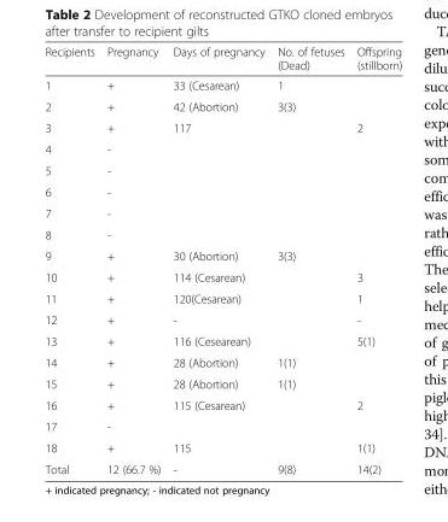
<table><thead><tr><td>Recipients</td><td>Pregnancy</td><td>Days of pregnancy</td><td>No. of fetuses (Dead)</td><td>Offspring (stillborn)</td></tr></thead><tbody><tr><td>1</td><td>+</td><td>33 (Cesarean)</td><td>1</td><td></td></tr><tr><td>2</td><td>+</td><td>42 (Abortion)</td><td>3(3)</td><td></td></tr><tr><td>3</td><td>+</td><td>117</td><td></td><td>2</td></tr><tr><td>4</td><td>-</td><td></td><td></td><td></td></tr><tr><td>5</td><td>-</td><td></td><td></td><td></td></tr><tr><td>6</td><td>-</td><td></td><td></td><td></td></tr><tr><td>7</td><td>-</td><td></td><td></td><td></td></tr><tr><td>8</td><td>-</td><td></td><td></td><td></td></tr><tr><td>9</td><td>+</td><td>30 (Abortion)</td><td>3(3)</td><td></td></tr><tr><td>10</td><td>+</td><td>114 (Cesarean)</td><td></td><td>3</td></tr><tr><td>11</td><td>+</td><td>120(Cesarean)</td><td></td><td>1</td></tr><tr><td>12</td><td>+</td><td>-</td><td></td><td>-</td></tr><tr><td>13</td><td>+</td><td>116 (Cesearean)</td><td></td><td>5(1)</td></tr><tr><td>14</td><td>+</td><td>28 (Abortion)</td><td>1(1)</td><td></td></tr><tr><td>15</td><td>+</td><td>28 (Abortion)</td><td>1(1)</td><td></td></tr><tr><td>16</td><td>+</td><td>115 (Cesarean)</td><td></td><td>2</td></tr><tr><td>17</td><td>-</td><td></td><td></td><td></td></tr><tr><td>18</td><td>+</td><td>115</td><td></td><td>1(1)</td></tr><tr><td>Total</td><td>12 (66.7 %)</td><td>-</td><td>9(8)</td><td>14(2)</td></tr></tbody></table>